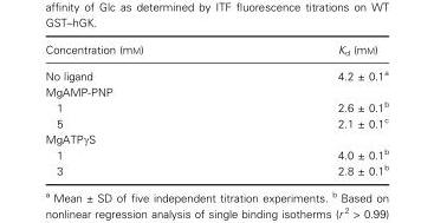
<table><thead><tr><td>Concentration (mM)</td><td>K<sub>d</sub> (mM)</td></tr></thead><tbody><tr><td>No ligand</td><td>4.2 ± 0.1<sup>a</sup></td></tr><tr><td colspan="2">MgAMP-PNP</td></tr><tr><td>1</td><td>2.6 ± 0.1<sup>b</sup></td></tr><tr><td>5</td><td>2.1 ± 0.1<sup>c</sup></td></tr><tr><td colspan="2">MgATPγS</td></tr><tr><td>1</td><td>4.0 ± 0.1<sup>b</sup></td></tr><tr><td>3</td><td>2.8 ± 0.1<sup>b</sup></td></tr></tbody></table>